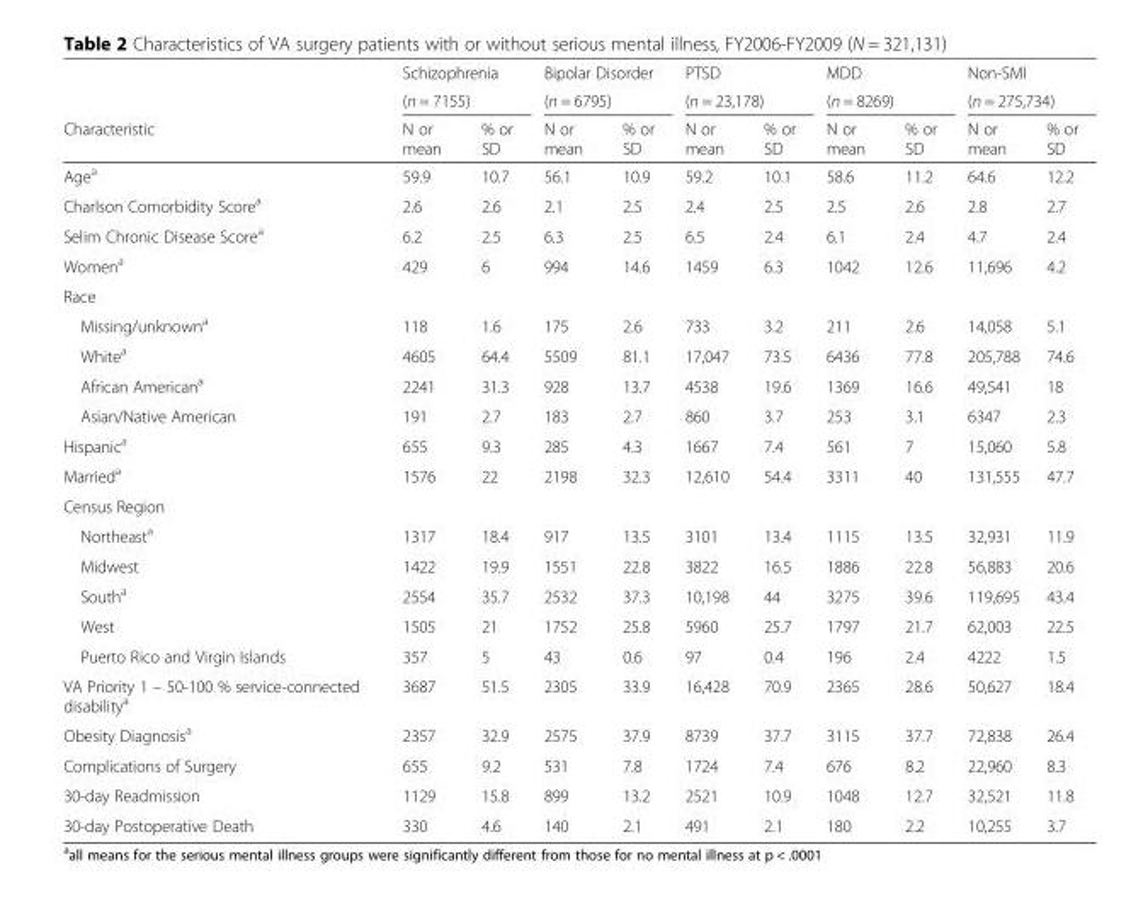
<table><thead><tr><td rowspan="3">Characteristic</td><td rowspan="2" colspan="2">Schizophrenia (n = 7155)</td><td rowspan="2" colspan="2">Bipolar Disorder (n = 6795)</td><td rowspan="2" colspan="2">PTSD (n = 23,178)</td><td rowspan="2" colspan="2">MDD (n = 8269)</td><td rowspan="2" colspan="2">Non-SMI (n = 275,734)</td></tr><tr></tr><tr><td>N or mean</td><td>% or SD</td><td>N or mean</td><td>% or SD</td><td>N or mean</td><td>% or SD</td><td>N or mean</td><td>% or SD</td><td>N or mean</td><td>% or SD</td></tr></thead><tbody><tr><td>Age<sup>a</sup></td><td>59.9</td><td>10.7</td><td>56.1</td><td>10.9</td><td>59.2</td><td>10.1</td><td>58.6</td><td>11.2</td><td>64.6</td><td>12.2</td></tr><tr><td>Charlson Comorbidity Score<sup>a</sup></td><td>2.6</td><td>2.6</td><td>2.1</td><td>2.5</td><td>2.4</td><td>2.5</td><td>2.5</td><td>2.6</td><td>2.8</td><td>2.7</td></tr><tr><td>Selim Chronic Disease Score<sup>a</sup></td><td>6.2</td><td>2.5</td><td>6.3</td><td>2.5</td><td>6.5</td><td>2.4</td><td>6.1</td><td>2.4</td><td>4.7</td><td>2.4</td></tr><tr><td>Women<sup>a</sup></td><td>429</td><td>6</td><td>994</td><td>14.6</td><td>1459</td><td>6.3</td><td>1042</td><td>12.6</td><td>11,696</td><td>4.2</td></tr><tr><td colspan="11">Race</td></tr><tr><td>Missing/unknown<sup>a</sup></td><td>118</td><td>1.6</td><td>175</td><td>2.6</td><td>733</td><td>3.2</td><td>211</td><td>2.6</td><td>14,058</td><td>5.1</td></tr><tr><td>White<sup>a</sup></td><td>4605</td><td>64.4</td><td>5509</td><td>81.1</td><td>17,047</td><td>73.5</td><td>6436</td><td>77.8</td><td>205,788</td><td>74.6</td></tr><tr><td>African American<sup>a</sup></td><td>2241</td><td>31.3</td><td>928</td><td>13.7</td><td>4538</td><td>19.6</td><td>1369</td><td>16.6</td><td>49,541</td><td>18</td></tr><tr><td>Asian/Native American</td><td>191</td><td>2.7</td><td>183</td><td>2.7</td><td>860</td><td>3.7</td><td>253</td><td>3.1</td><td>6347</td><td>2.3</td></tr><tr><td>Hispanic<sup>a</sup></td><td>655</td><td>9.3</td><td>285</td><td>4.3</td><td>1667</td><td>7.4</td><td>561</td><td>7</td><td>15,060</td><td>5.8</td></tr><tr><td>Married<sup>a</sup></td><td>1576</td><td>22</td><td>2198</td><td>32.3</td><td>12,610</td><td>54.4</td><td>3311</td><td>40</td><td>131,555</td><td>47.7</td></tr><tr><td colspan="11">Census Region</td></tr><tr><td>Northeast<sup>a</sup></td><td>1317</td><td>18.4</td><td>917</td><td>13.5</td><td>3101</td><td>13.4</td><td>1115</td><td>13.5</td><td>32,931</td><td>11.9</td></tr><tr><td>Midwest</td><td>1422</td><td>19.9</td><td>1551</td><td>22.8</td><td>3822</td><td>16.5</td><td>1886</td><td>22.8</td><td>56,883</td><td>20.6</td></tr><tr><td>South<sup>a</sup></td><td>2554</td><td>35.7</td><td>2532</td><td>37.3</td><td>10,198</td><td>44</td><td>3275</td><td>39.6</td><td>119,695</td><td>43.4</td></tr><tr><td>West</td><td>1505</td><td>21</td><td>1752</td><td>25.8</td><td>5960</td><td>25.7</td><td>1797</td><td>21.7</td><td>62,003</td><td>22.5</td></tr><tr><td>Puerto Rico and Virgin Islands</td><td>357</td><td>5</td><td>43</td><td>0.6</td><td>97</td><td>0.4</td><td>196</td><td>2.4</td><td>4222</td><td>1.5</td></tr><tr><td>VA Priority 1 – 50-100 % service-connected disability<sup>a</sup></td><td>3687</td><td>51.5</td><td>2305</td><td>33.9</td><td>16,428</td><td>70.9</td><td>2365</td><td>28.6</td><td>50,627</td><td>18.4</td></tr><tr><td>Obesity Diagnosis<sup>a</sup></td><td>2357</td><td>32.9</td><td>2575</td><td>37.9</td><td>8739</td><td>37.7</td><td>3115</td><td>37.7</td><td>72,838</td><td>26.4</td></tr><tr><td>Complications of Surgery</td><td>655</td><td>9.2</td><td>531</td><td>7.8</td><td>1724</td><td>7.4</td><td>676</td><td>8.2</td><td>22,960</td><td>8.3</td></tr><tr><td>30-day Readmission</td><td>1129</td><td>15.8</td><td>899</td><td>13.2</td><td>2521</td><td>10.9</td><td>1048</td><td>12.7</td><td>32,521</td><td>11.8</td></tr><tr><td>30-day Postoperative Death</td><td>330</td><td>4.6</td><td>140</td><td>2.1</td><td>491</td><td>2.1</td><td>180</td><td>2.2</td><td>10,255</td><td>3.7</td></tr></tbody></table>